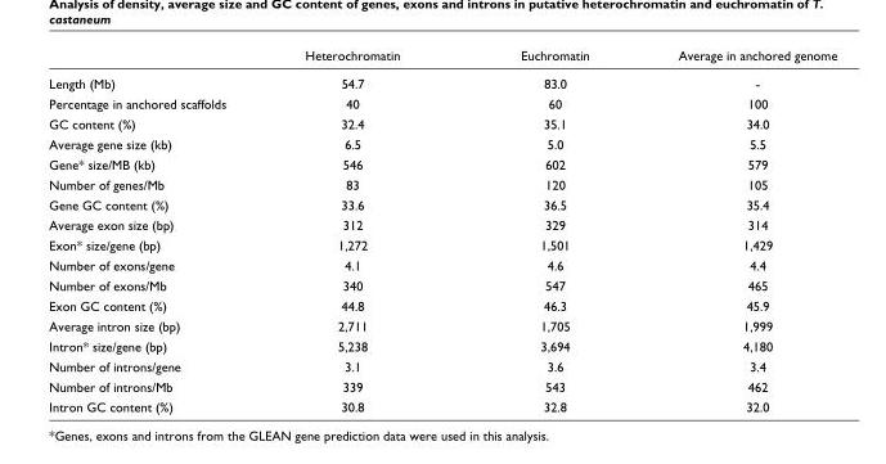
<table><thead><tr><td></td><td>Heterochromatin</td><td>Euchromatin</td><td>Average in anchored genome</td></tr></thead><tbody><tr><td>Length (Mb)</td><td>54.7</td><td>83.0</td><td>-</td></tr><tr><td>Percentage in anchored scaffolds</td><td>40</td><td>60</td><td>100</td></tr><tr><td>GC content (%)</td><td>32.4</td><td>35.1</td><td>34.0</td></tr><tr><td>Average gene size (kb)</td><td>6.5</td><td>5.0</td><td>5.5</td></tr><tr><td>Gene* size/MB (kb)</td><td>546</td><td>602</td><td>579</td></tr><tr><td>Number of genes/Mb</td><td>83</td><td>120</td><td>105</td></tr><tr><td>Gene GC content (%)</td><td>33.6</td><td>36.5</td><td>35.4</td></tr><tr><td>Average exon size (bp)</td><td>312</td><td>329</td><td>314</td></tr><tr><td>Exon* size/gene (bp)</td><td>1,272</td><td>1,501</td><td>1,429</td></tr><tr><td>Number of exons/gene</td><td>4.1</td><td>4.6</td><td>4.4</td></tr><tr><td>Number of exons/Mb</td><td>340</td><td>547</td><td>465</td></tr><tr><td>Exon GC content (%)</td><td>44.8</td><td>46.3</td><td>45.9</td></tr><tr><td>Average intron size (bp)</td><td>2,711</td><td>1,705</td><td>1,999</td></tr><tr><td>Intron* size/gene (bp)</td><td>5,238</td><td>3,694</td><td>4,180</td></tr><tr><td>Number of introns/gene</td><td>3.1</td><td>3.6</td><td>3.4</td></tr><tr><td>Number of introns/Mb</td><td>339</td><td>543</td><td>462</td></tr><tr><td>Intron GC content (%)</td><td>30.8</td><td>32.8</td><td>32.0</td></tr></tbody></table>